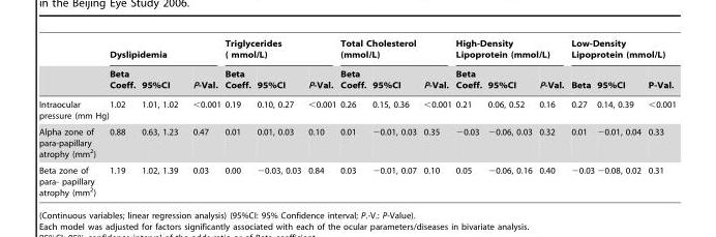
<table><thead><tr><td rowspan="2"></td><td colspan="3">Dyslipidemia</td><td colspan="3">Triglycerides ( mmol/L)</td><td colspan="3">Total Cholesterol (mmol/L)</td><td colspan="3">High-Density Lipoprotein (mmol/L)</td><td colspan="3">Low-Density Lipoprotein (mmol/L)</td></tr><tr><td>Beta Coeff.</td><td>95%CI</td><td>P-Val.</td><td>Beta Coeff.</td><td>95%CI</td><td>P-Val.</td><td>Beta Coeff.</td><td>95%CI</td><td>P-Val.</td><td>Beta Coeff.</td><td>95%CI</td><td>P-Val.</td><td>Beta</td><td>95%CI</td><td>P-Val.</td></tr></thead><tbody><tr><td>Intraocular pressure (mm Hg)</td><td>1.02</td><td>1.01, 1.02</td><td>&lt;0.001</td><td>0.19</td><td>0.10, 0.27</td><td>&lt;0.001</td><td>0.26</td><td>0.15, 0.36</td><td>&lt;0.001</td><td>0.21</td><td>0.06, 0.52</td><td>0.16</td><td>0.27</td><td>0.14, 0.39</td><td>&lt;0.001</td></tr><tr><td>Alpha zone of para-papillary atrophy (mm<sup>2</sup>)</td><td>0.88</td><td>0.63, 1.23</td><td>0.47</td><td>0.01</td><td>0.01, 0.03</td><td>0.10</td><td>0.01</td><td>−0.01, 0.03</td><td>0.35</td><td>−0.03</td><td>−0.06, 0.03</td><td>0.32</td><td>0.01</td><td>−0.01, 0.04</td><td>0.33</td></tr><tr><td>Beta zone of para- papillary atrophy (mm<sup>2</sup>)</td><td>1.19</td><td>1.02, 1.39</td><td>0.03</td><td>0.00</td><td>−0.03, 0.03</td><td>0.84</td><td>0.03</td><td>−0.01, 0.07</td><td>0.10</td><td>0.05</td><td>−0.06, 0.16</td><td>0.40</td><td>−0.03</td><td>−0.08, 0.02</td><td>0.31</td></tr></tbody></table>